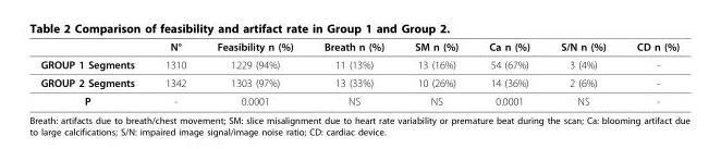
<table><thead><tr><td></td><td>N°</td><td>Feasibility n (%)</td><td>Breath n (%)</td><td>SM n (%)</td><td>Ca n (%)</td><td>S/N n (%)</td><td>CD n (%)</td></tr></thead><tbody><tr><td>GROUP 1 Segments</td><td>1310</td><td>1229 (94%)</td><td>11 (13%)</td><td>13 (16%)</td><td>54 (67%)</td><td>3 (4%)</td><td>-</td></tr><tr><td>GROUP 2 Segments</td><td>1342</td><td>1303 (97%)</td><td>13 (33%)</td><td>10 (26%)</td><td>14 (36%)</td><td>2 (6%)</td><td>-</td></tr><tr><td>P</td><td>-</td><td>0.0001</td><td>NS</td><td>NS</td><td>0.0001</td><td>NS</td><td>-</td></tr></tbody></table>